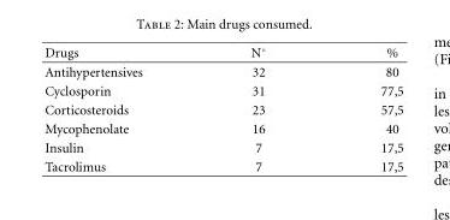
<table><thead><tr><td>Drugs</td><td>N◦</td><td>%</td></tr></thead><tbody><tr><td>Antihypertensives</td><td>32</td><td>80</td></tr><tr><td>Cyclosporin</td><td>31</td><td>77,5</td></tr><tr><td>Corticosteroids</td><td>23</td><td>57,5</td></tr><tr><td>Mycophenolate</td><td>16</td><td>40</td></tr><tr><td>Insulin</td><td>7</td><td>17,5</td></tr><tr><td>Tacrolimus</td><td>7</td><td>17,5</td></tr></tbody></table>